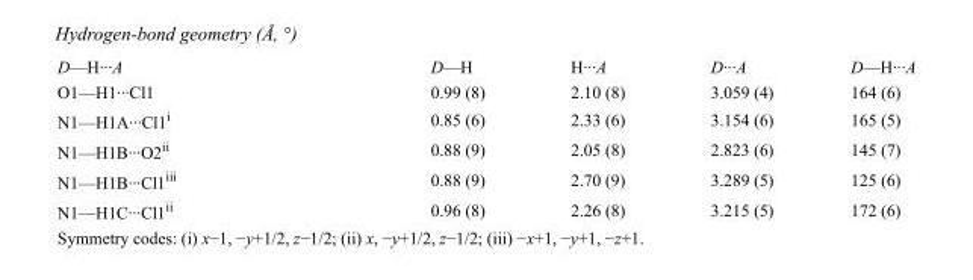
<table><tbody><tr><td>D—H···A</td><td>D—H</td><td>H···A</td><td>D···A</td><td>D—H···A</td></tr><tr><td>O1—H1···Cl1</td><td>0.99 (8)</td><td>2.10 (8)</td><td>3.059 (4)</td><td>164 (6)</td></tr><tr><td>N1—H1A···Cl1<sup>i</sup></td><td>0.85 (6)</td><td>2.33 (6)</td><td>3.154 (6)</td><td>165 (5)</td></tr><tr><td>N1—H1B···O2<sup>ii</sup></td><td>0.88 (9)</td><td>2.05 (8)</td><td>2.823 (6)</td><td>145 (7)</td></tr><tr><td>N1—H1B···Cl1<sup>iii</sup></td><td>0.88 (9)</td><td>2.70 (9)</td><td>3.289 (5)</td><td>125 (6)</td></tr><tr><td>N1—H1C···Cl1<sup>ii</sup></td><td>0.96 (8)</td><td>2.26 (8)</td><td>3.215 (5)</td><td>172 (6)</td></tr></tbody></table>